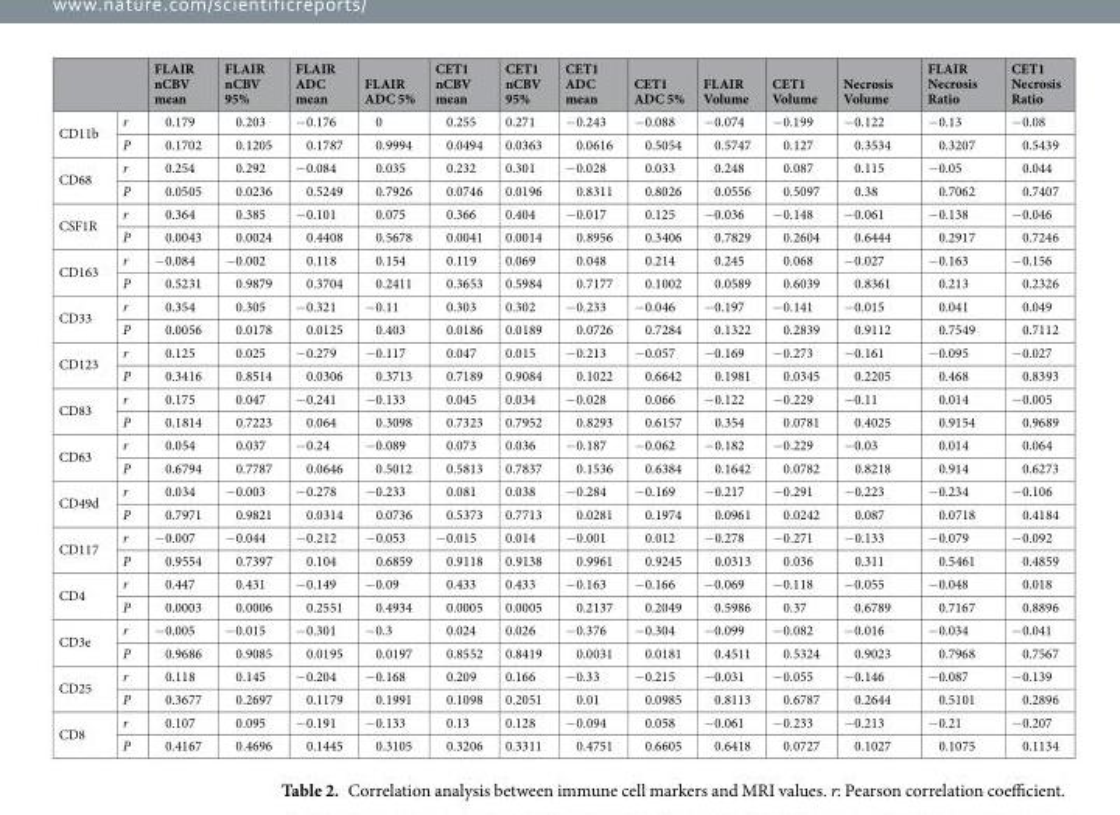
<table><thead><tr><td></td><td></td><td>FLAIR nCBV mean</td><td>FLAIR nCBV 95%</td><td>FLAIR ADC mean</td><td>FLAIR ADC 5%</td><td>CET1 nCBV mean</td><td>CET1 nCBV 95%</td><td>CET1 ADC mean</td><td>CET1 ADC 5%</td><td>FLAIR Volume</td><td>CET1 Volume</td><td>Necrosis Volume</td><td>FLAIR Necrosis Ratio</td><td>CET1 Necrosis Ratio</td></tr></thead><tbody><tr><td rowspan="2">CD11b</td><td>r</td><td>0.179</td><td>0.203</td><td>−0.176</td><td>0</td><td>0.255</td><td>0.271</td><td>−0.243</td><td>−0.088</td><td>−0.074</td><td>−0.199</td><td>−0.122</td><td>−0.13</td><td>−0.08</td></tr><tr><td>P</td><td>0.1702</td><td>0.1205</td><td>0.1787</td><td>0.9994</td><td>0.0494</td><td>0.0363</td><td>0.0616</td><td>0.5054</td><td>0.5747</td><td>0.127</td><td>0.3534</td><td>0.3207</td><td>0.5439</td></tr><tr><td rowspan="2">CD68</td><td>r</td><td>0.254</td><td>0.292</td><td>−0.084</td><td>0.035</td><td>0.232</td><td>0.301</td><td>−0.028</td><td>0.033</td><td>0.248</td><td>0.087</td><td>0.115</td><td>−0.05</td><td>0.044</td></tr><tr><td>P</td><td>0.0505</td><td>0.0236</td><td>0.5249</td><td>0.7926</td><td>0.0746</td><td>0.0196</td><td>0.8311</td><td>0.8026</td><td>0.0556</td><td>0.5097</td><td>0.38</td><td>0.7062</td><td>0.7407</td></tr><tr><td rowspan="2">CSF1R</td><td>r</td><td>0.364</td><td>0.385</td><td>−0.101</td><td>0.075</td><td>0.366</td><td>0.404</td><td>−0.017</td><td>0.125</td><td>−0.036</td><td>−0.148</td><td>−0.061</td><td>−0.138</td><td>−0.046</td></tr><tr><td>P</td><td>0.0043</td><td>0.0024</td><td>0.4408</td><td>0.5678</td><td>0.0041</td><td>0.0014</td><td>0.8956</td><td>0.3406</td><td>0.7829</td><td>0.2604</td><td>0.6444</td><td>0.2917</td><td>0.7246</td></tr><tr><td rowspan="2">CD163</td><td>r</td><td>−0.084</td><td>−0.002</td><td>0.118</td><td>0.154</td><td>0.119</td><td>0.069</td><td>0.048</td><td>0.214</td><td>0.245</td><td>0.068</td><td>−0.027</td><td>−0.163</td><td>−0.156</td></tr><tr><td>P</td><td>0.5231</td><td>0.9879</td><td>0.3704</td><td>0.2411</td><td>0.3653</td><td>0.5984</td><td>0.7177</td><td>0.1002</td><td>0.0589</td><td>0.6039</td><td>0.8361</td><td>0.213</td><td>0.2326</td></tr><tr><td rowspan="2">CD33</td><td>r</td><td>0.354</td><td>0.305</td><td>−0.321</td><td>−0.11</td><td>0.303</td><td>0.302</td><td>−0.233</td><td>−0.046</td><td>−0.197</td><td>−0.141</td><td>−0.015</td><td>0.041</td><td>0.049</td></tr><tr><td>P</td><td>0.0056</td><td>0.0178</td><td>0.0125</td><td>0.403</td><td>0.0186</td><td>0.0189</td><td>0.0726</td><td>0.7284</td><td>0.1322</td><td>0.2839</td><td>0.9112</td><td>0.7549</td><td>0.7112</td></tr><tr><td rowspan="2">CD123</td><td>r</td><td>0.125</td><td>0.025</td><td>−0.279</td><td>−0.117</td><td>0.047</td><td>0.015</td><td>−0.213</td><td>−0.057</td><td>−0.169</td><td>−0.273</td><td>−0.161</td><td>−0.095</td><td>−0.027</td></tr><tr><td>P</td><td>0.3416</td><td>0.8514</td><td>0.0306</td><td>0.3713</td><td>0.7189</td><td>0.9084</td><td>0.1022</td><td>0.6642</td><td>0.1981</td><td>0.0345</td><td>0.2205</td><td>0.468</td><td>0.8393</td></tr><tr><td rowspan="2">CD83</td><td>r</td><td>0.175</td><td>0.047</td><td>−0.241</td><td>−0.133</td><td>0.045</td><td>0.034</td><td>−0.028</td><td>0.066</td><td>−0.122</td><td>−0.229</td><td>−0.11</td><td>0.014</td><td>−0.005</td></tr><tr><td>P</td><td>0.1814</td><td>0.7223</td><td>0.064</td><td>0.3098</td><td>0.7323</td><td>0.7952</td><td>0.8293</td><td>0.6157</td><td>0.354</td><td>0.0781</td><td>0.4025</td><td>0.9154</td><td>0.9689</td></tr><tr><td rowspan="2">CD63</td><td>r</td><td>0.054</td><td>0.037</td><td>−0.24</td><td>−0.089</td><td>0.073</td><td>0.036</td><td>−0.187</td><td>−0.062</td><td>−0.182</td><td>−0.229</td><td>−0.03</td><td>0.014</td><td>0.064</td></tr><tr><td>P</td><td>0.6794</td><td>0.7787</td><td>0.0646</td><td>0.5012</td><td>0.5813</td><td>0.7837</td><td>0.1536</td><td>0.6384</td><td>0.1642</td><td>0.0782</td><td>0.8218</td><td>0.914</td><td>0.6273</td></tr><tr><td rowspan="2">CD49d</td><td>r</td><td>0.034</td><td>−0.003</td><td>−0.278</td><td>−0.233</td><td>0.081</td><td>0.038</td><td>−0.284</td><td>−0.169</td><td>−0.217</td><td>−0.291</td><td>−0.223</td><td>−0.234</td><td>−0.106</td></tr><tr><td>P</td><td>0.7971</td><td>0.9821</td><td>0.0314</td><td>0.0736</td><td>0.5373</td><td>0.7713</td><td>0.0281</td><td>0.1974</td><td>0.0961</td><td>0.0242</td><td>0.087</td><td>0.0718</td><td>0.4184</td></tr><tr><td rowspan="2">CD117</td><td>r</td><td>−0.007</td><td>−0.044</td><td>−0.212</td><td>−0.053</td><td>−0.015</td><td>0.014</td><td>−0.001</td><td>0.012</td><td>−0.278</td><td>−0.271</td><td>−0.133</td><td>−0.079</td><td>−0.092</td></tr><tr><td>P</td><td>0.9554</td><td>0.7397</td><td>0.104</td><td>0.6859</td><td>0.9118</td><td>0.9138</td><td>0.9961</td><td>0.9245</td><td>0.0313</td><td>0.036</td><td>0.311</td><td>0.5461</td><td>0.4859</td></tr><tr><td rowspan="2">CD4</td><td>r</td><td>0.447</td><td>0.431</td><td>−0.149</td><td>−0.09</td><td>0.433</td><td>0.433</td><td>−0.163</td><td>−0.166</td><td>−0.069</td><td>−0.118</td><td>−0.055</td><td>−0.048</td><td>0.018</td></tr><tr><td>P</td><td>0.0003</td><td>0.0006</td><td>0.2551</td><td>0.4934</td><td>0.0005</td><td>0.0005</td><td>0.2137</td><td>0.2049</td><td>0.5986</td><td>0.37</td><td>0.6789</td><td>0.7167</td><td>0.8896</td></tr><tr><td rowspan="2">CD3e</td><td>r</td><td>−0.005</td><td>−0.015</td><td>−0.301</td><td>−0.3</td><td>0.024</td><td>0.026</td><td>−0.376</td><td>−0.304</td><td>−0.099</td><td>−0.082</td><td>−0.016</td><td>−0.034</td><td>−0.041</td></tr><tr><td>P</td><td>0.9686</td><td>0.9085</td><td>0.0195</td><td>0.0197</td><td>0.8552</td><td>0.8419</td><td>0.0031</td><td>0.0181</td><td>0.4511</td><td>0.5324</td><td>0.9023</td><td>0.7968</td><td>0.7567</td></tr><tr><td rowspan="2">CD25</td><td>r</td><td>0.118</td><td>0.145</td><td>−0.204</td><td>−0.168</td><td>0.209</td><td>0.166</td><td>−0.33</td><td>−0.215</td><td>−0.031</td><td>−0.055</td><td>−0.146</td><td>−0.087</td><td>−0.139</td></tr><tr><td>P</td><td>0.3677</td><td>0.2697</td><td>0.1179</td><td>0.1991</td><td>0.1098</td><td>0.2051</td><td>0.01</td><td>0.0985</td><td>0.8113</td><td>0.6787</td><td>0.2644</td><td>0.5101</td><td>0.2896</td></tr><tr><td rowspan="2">CD8</td><td>r</td><td>0.107</td><td>0.095</td><td>−0.191</td><td>−0.133</td><td>0.13</td><td>0.128</td><td>−0.094</td><td>0.058</td><td>−0.061</td><td>−0.233</td><td>−0.213</td><td>−0.21</td><td>−0.207</td></tr><tr><td>P</td><td>0.4167</td><td>0.4696</td><td>0.1445</td><td>0.3105</td><td>0.3206</td><td>0.3311</td><td>0.4751</td><td>0.6605</td><td>0.6418</td><td>0.0727</td><td>0.1027</td><td>0.1075</td><td>0.1134</td></tr></tbody></table>